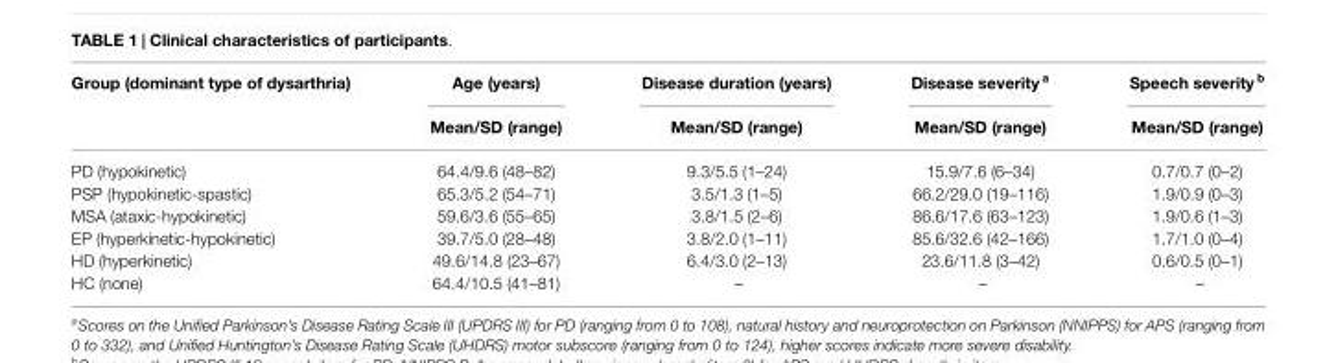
<table><thead><tr><td rowspan="2">Group (dominant type of dysarthria)</td><td rowspan="2">Age (years) Mean/SD (range)</td><td rowspan="2">Disease duration (years) Mean/SD (range)</td><td rowspan="2">Disease severity <sup>a</sup> Mean/SD (range)</td><td rowspan="2">Speech severity <sup>b</sup> Mean/SD (range)</td></tr><tr></tr></thead><tbody><tr><td>PD (hypokinetic)</td><td>64.4/9.6 (48–82)</td><td>9.3/5.5 (1–24)</td><td>15.9/7.6 (6–34)</td><td>0.7/0.7 (0–2)</td></tr><tr><td>PSP (hypokinetic-spastic)</td><td>65.3/5.2 (54–71)</td><td>3.5/1.3 (1–5)</td><td>66.2/29.0 (19–116)</td><td>1.9/0.9 (0–3)</td></tr><tr><td>MSA (ataxic-hypokinetic)</td><td>59.6/3.6 (55–65)</td><td>3.8/1.5 (2–6)</td><td>86.6/17.6 (63–123)</td><td>1.9/0.6 (1–3)</td></tr><tr><td>EP (hyperkinetic-hypokinetic)</td><td>39.7/5.0 (28–48)</td><td>3.8/2.0 (1–11)</td><td>85.6/32.6 (42–166)</td><td>1.7/1.0 (0–4)</td></tr><tr><td>HD (hyperkinetic)</td><td>49.6/14.8 (23–67)</td><td>6.4/3.0 (2–13)</td><td>23.6/11.8 (3–42)</td><td>0.6/0.5 (0–1)</td></tr><tr><td>HC (none)</td><td>64.4/10.5 (41–81)</td><td>–</td><td>–</td><td>–</td></tr></tbody></table>